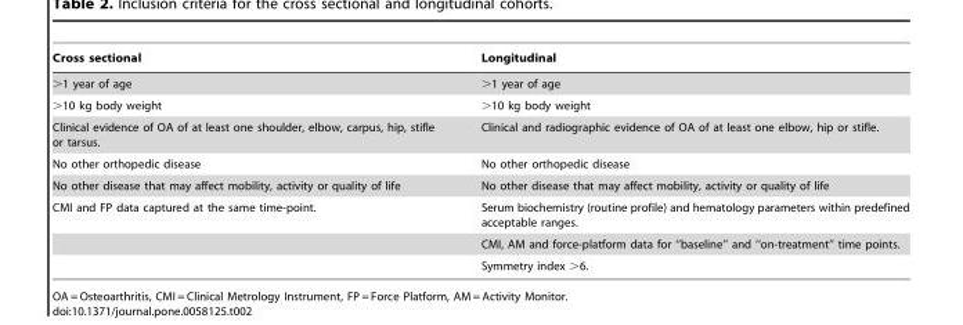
<table><thead><tr><td>Cross sectional</td><td>Longitudinal</td></tr></thead><tbody><tr><td>&gt;1 year of age</td><td>&gt;1 year of age</td></tr><tr><td>&gt;10 kg body weight</td><td>&gt;10 kg body weight</td></tr><tr><td>Clinical evidence of OA of at least one shoulder, elbow, carpus, hip, stifle or tarsus.</td><td>Clinical and radiographic evidence of OA of at least one elbow, hip or stifle.</td></tr><tr><td>No other orthopedic disease</td><td>No other orthopedic disease</td></tr><tr><td>No other disease that may affect mobility, activity or quality of life</td><td>No other disease that may affect mobility, activity or quality of life</td></tr><tr><td rowspan="3">CMI and FP data captured at the same time-point.</td><td>Serum biochemistry (routine profile) and hematology parameters within predefined acceptable ranges.</td></tr><tr><td>CMI, AM and force-platform data for ‘‘baseline’’ and ‘‘on-treatment’’ time points.</td></tr><tr><td>Symmetry index &gt;6.</td></tr></tbody></table>